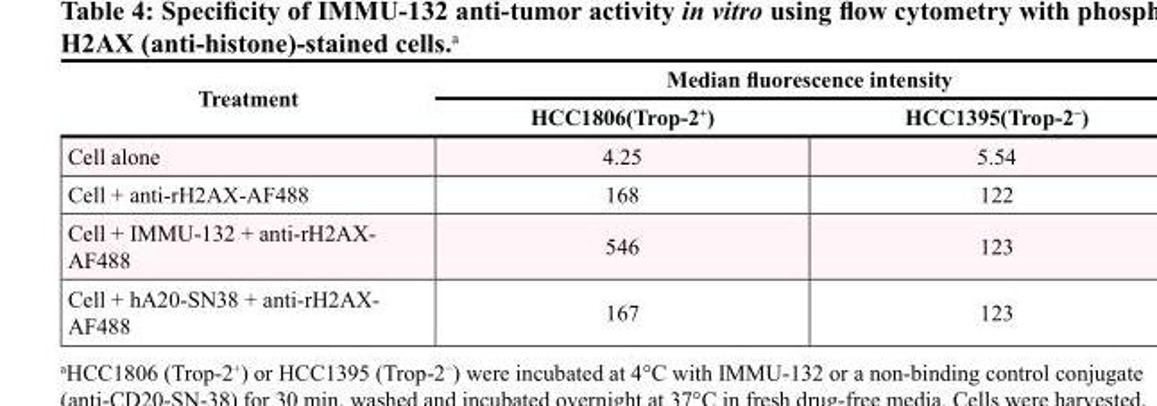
<table><thead><tr><td rowspan="2">Treatment</td><td colspan="2">Median fluorescence intensity</td></tr><tr><td>HCC1806(Trop-2<sup>+</sup>)</td><td>HCC1395(Trop-2<sup>−</sup>)</td></tr></thead><tbody><tr><td>Cell alone</td><td>4.25</td><td>5.54</td></tr><tr><td>Cell + anti-rH2AX-AF488</td><td>168</td><td>122</td></tr><tr><td>Cell + IMMU-132 + anti-rH2AX- AF488</td><td>546</td><td>123</td></tr><tr><td>Cell + hA20-SN38 + anti-rH2AX- AF488</td><td>167</td><td>123</td></tr></tbody></table>